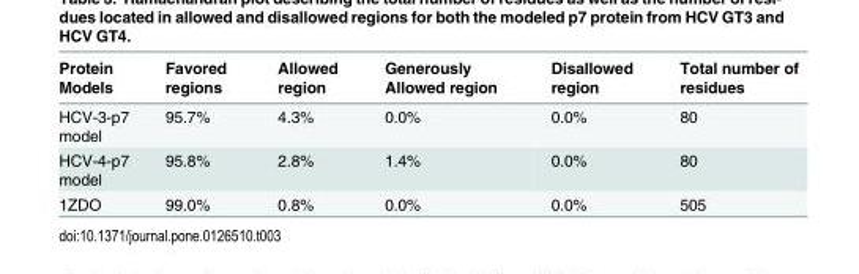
<table><thead><tr><td>Protein Models</td><td>Favored regions</td><td>Allowed region</td><td>Generously Allowed region</td><td>Disallowed region</td><td>Total number of residues</td></tr></thead><tbody><tr><td>HCV-3-p7 model</td><td>95.7%</td><td>4.3%</td><td>0.0%</td><td>0.0%</td><td>80</td></tr><tr><td>HCV-4-p7 model</td><td>95.8%</td><td>2.8%</td><td>1.4%</td><td>0.0%</td><td>80</td></tr><tr><td>1ZDO</td><td>99.0%</td><td>0.8%</td><td>0.0%</td><td>0.0%</td><td>505</td></tr></tbody></table>